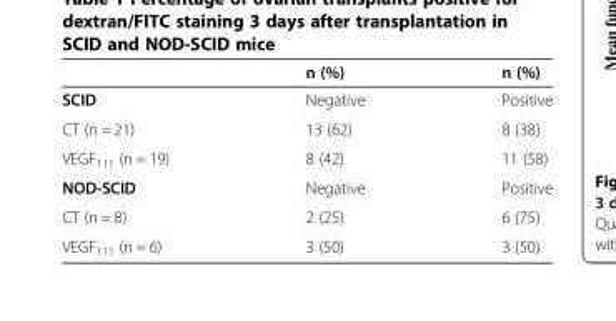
<table><thead><tr><td></td><td>n (%)</td><td>n (%)</td></tr></thead><tbody><tr><td>SCID</td><td>Negative</td><td>Positive</td></tr><tr><td>CT (n = 21)</td><td>13 (62)</td><td>8 (38)</td></tr><tr><td>VEGF<sub>111</sub> (n = 19)</td><td>8 (42)</td><td>11 (58)</td></tr><tr><td>NOD-SCID</td><td>Negative</td><td>Positive</td></tr><tr><td>CT (n = 8)</td><td>2 (25)</td><td>6 (75)</td></tr><tr><td>VEGF<sub>111</sub> (n = 6)</td><td>3 (50)</td><td>3 (50)</td></tr></tbody></table>